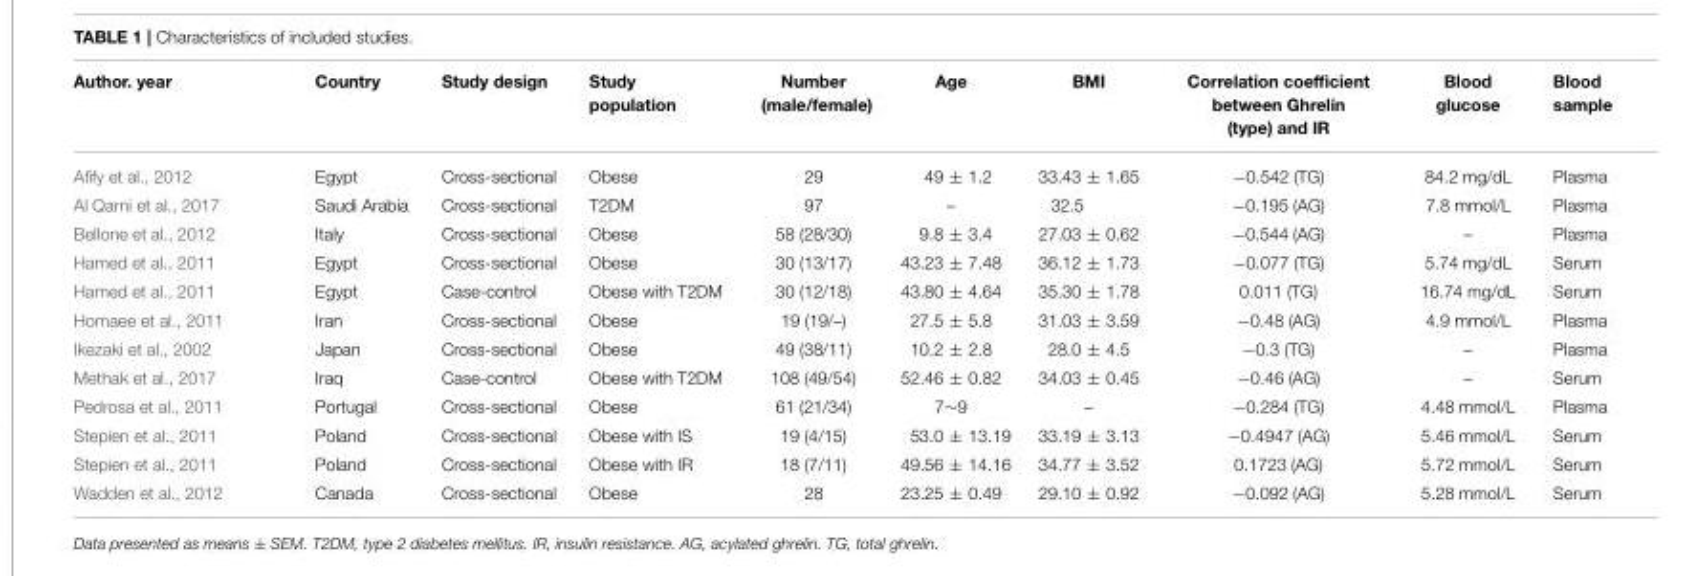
<table><thead><tr><td>Author. year</td><td>Country</td><td>Study design</td><td>Study population</td><td>Number (male/female)</td><td>Age</td><td>BMI</td><td>Correlation coefficient between Ghrelin (type) and IR</td><td>Blood glucose</td><td>Blood sample</td></tr></thead><tbody><tr><td>Afify et al., 2012</td><td>Egypt</td><td>Cross-sectional</td><td>Obese</td><td>29</td><td>49 ± 1.2</td><td>33.43 ± 1.65</td><td>−0.542 (TG)</td><td>84.2 mg/dL</td><td>Plasma</td></tr><tr><td>Al Qarni et al., 2017</td><td>Saudi Arabia</td><td>Cross-sectional</td><td>T2DM</td><td>97</td><td>–</td><td>32.5</td><td>−0.195 (AG)</td><td>7.8 mmol/L</td><td>Plasma</td></tr><tr><td>Bellone et al., 2012</td><td>Italy</td><td>Cross-sectional</td><td>Obese</td><td>58 (28/30)</td><td>9.8 ± 3.4</td><td>27.03 ± 0.62</td><td>−0.544 (AG)</td><td>–</td><td>Plasma</td></tr><tr><td>Hamed et al., 2011</td><td>Egypt</td><td>Cross-sectional</td><td>Obese</td><td>30 (13/17)</td><td>43.23 ± 7.48</td><td>36.12 ± 1.73</td><td>−0.077 (TG)</td><td>5.74 mg/dL</td><td>Serum</td></tr><tr><td>Hamed et al., 2011</td><td>Egypt</td><td>Case-control</td><td>Obese with T2DM</td><td>30 (12/18)</td><td>43.80 ± 4.64</td><td>35.30 ± 1.78</td><td>0.011 (TG)</td><td>16.74 mg/dL</td><td>Serum</td></tr><tr><td>Homaee et al., 2011</td><td>Iran</td><td>Cross-sectional</td><td>Obese</td><td>19 (19/–)</td><td>27.5 ± 5.8</td><td>31.03 ± 3.59</td><td>−0.48 (AG)</td><td>4.9 mmol/L</td><td>Plasma</td></tr><tr><td>Ikezaki et al., 2002</td><td>Japan</td><td>Cross-sectional</td><td>Obese</td><td>49 (38/11)</td><td>10.2 ± 2.8</td><td>28.0 ± 4.5</td><td>−0.3 (TG)</td><td>–</td><td>Plasma</td></tr><tr><td>Methak et al., 2017</td><td>Iraq</td><td>Case-control</td><td>Obese with T2DM</td><td>108 (49/54)</td><td>52.46 ± 0.82</td><td>34.03 ± 0.45</td><td>−0.46 (AG)</td><td>–</td><td>Serum</td></tr><tr><td>Pedrosa et al., 2011</td><td>Portugal</td><td>Cross-sectional</td><td>Obese</td><td>61 (21/34)</td><td>7∼9</td><td>–</td><td>−0.284 (TG)</td><td>4.48 mmol/L</td><td>Plasma</td></tr><tr><td>Stepien et al., 2011</td><td>Poland</td><td>Cross-sectional</td><td>Obese with IS</td><td>19 (4/15)</td><td>53.0 ± 13.19</td><td>33.19 ± 3.13</td><td>−0.4947 (AG)</td><td>5.46 mmol/L</td><td>Serum</td></tr><tr><td>Stepien et al., 2011</td><td>Poland</td><td>Cross-sectional</td><td>Obese with IR</td><td>18 (7/11)</td><td>49.56 ± 14.16</td><td>34.77 ± 3.52</td><td>0.1723 (AG)</td><td>5.72 mmol/L</td><td>Serum</td></tr><tr><td>Wadden et al., 2012</td><td>Canada</td><td>Cross-sectional</td><td>Obese</td><td>28</td><td>23.25 ± 0.49</td><td>29.10 ± 0.92</td><td>−0.092 (AG)</td><td>5.28 mmol/L</td><td>Serum</td></tr></tbody></table>